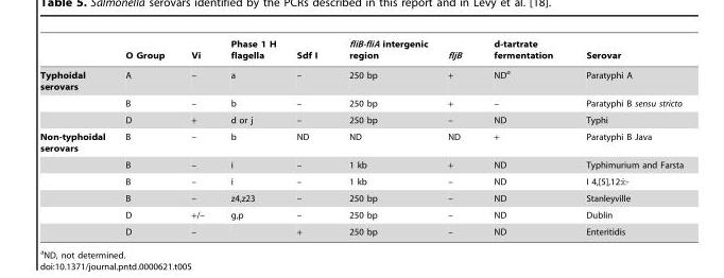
<table><thead><tr><td></td><td>O Group</td><td>Vi</td><td>Phase 1 H flagella</td><td>Sdf I</td><td>fliB-fliA intergenic region</td><td>fljB</td><td>d-tartrate fermentation</td><td>Serovar</td></tr></thead><tbody><tr><td rowspan="3">Typhoidal serovars</td><td>A</td><td>–</td><td>a</td><td>–</td><td>250 bp</td><td>+</td><td>ND<sup>a</sup></td><td>Paratyphi A</td></tr><tr><td>B</td><td>–</td><td>b</td><td>–</td><td>250 bp</td><td>+</td><td>–</td><td>Paratyphi B sensu stricto</td></tr><tr><td>D</td><td>+</td><td>d or j</td><td>–</td><td>250 bp</td><td>–</td><td>ND</td><td>Typhi</td></tr><tr><td rowspan="6">Non-typhoidal serovars</td><td>B</td><td>–</td><td>b</td><td>ND</td><td>ND</td><td>ND</td><td>+</td><td>Paratyphi B Java</td></tr><tr><td>B</td><td>–</td><td>i</td><td>–</td><td>1 kb</td><td>+</td><td>ND</td><td>Typhimurium and Farsta</td></tr><tr><td>B</td><td>–</td><td>i</td><td>–</td><td>1 kb</td><td>–</td><td>ND</td><td>I 4,[5],12:i:-</td></tr><tr><td>B</td><td>–</td><td>z4,z23</td><td>–</td><td>250 bp</td><td>–</td><td>ND</td><td>Stanleyville</td></tr><tr><td>D</td><td>+/–</td><td>g,p</td><td>–</td><td>250 bp</td><td>–</td><td>ND</td><td>Dublin</td></tr><tr><td>D</td><td>–</td><td></td><td>+</td><td>250 bp</td><td>–</td><td>ND</td><td>Enteritidis</td></tr></tbody></table>